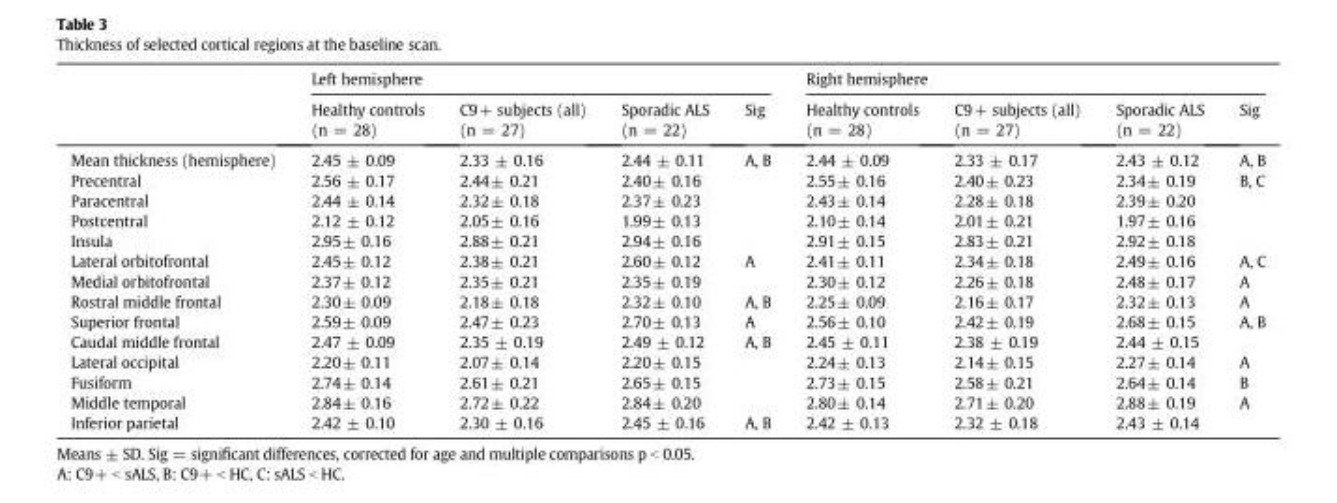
<table><thead><tr><td rowspan="2"></td><td colspan="4">Left hemisphere</td><td colspan="4">Right hemisphere</td></tr><tr><td>Healthy controls (n = 28)</td><td>C9+ subjects (all) (n = 27)</td><td>Sporadic ALS (n = 22)</td><td>Sig</td><td>Healthy controls (n = 28)</td><td>C9+ subjects (all) (n = 27)</td><td>Sporadic ALS (n = 22)</td><td>Sig</td></tr></thead><tbody><tr><td>Mean thickness (hemisphere)</td><td>2.45 ± 0.09</td><td>2.33 ± 0.16</td><td>2.44 ± 0.11</td><td>A, B</td><td>2.44 ± 0.09</td><td>2.33 ± 0.17</td><td>2.43 ± 0.12</td><td>A, B</td></tr><tr><td>Precentral</td><td>2.56 ± 0.17</td><td>2.44± 0.21</td><td>2.40± 0.16</td><td></td><td>2.55± 0.16</td><td>2.40± 0.23</td><td>2.34± 0.19</td><td>B, C</td></tr><tr><td>Paracentral</td><td>2.44 ± 0.14</td><td>2.32± 0.18</td><td>2.37± 0.23</td><td></td><td>2.43± 0.14</td><td>2.28± 0.18</td><td>2.39± 0.20</td><td></td></tr><tr><td>Postcentral</td><td>2.12 ± 0.12</td><td>2.05± 0.16</td><td>1.99± 0.13</td><td></td><td>2.10± 0.14</td><td>2.01± 0.21</td><td>1.97± 0.16</td><td></td></tr><tr><td>Insula</td><td>2.95± 0.16</td><td>2.88± 0.21</td><td>2.94± 0.16</td><td></td><td>2.91± 0.15</td><td>2.83± 0.21</td><td>2.92± 0.18</td><td></td></tr><tr><td>Lateral orbitofrontal</td><td>2.45± 0.12</td><td>2.38± 0.21</td><td>2.60± 0.12</td><td>A</td><td>2.41± 0.11</td><td>2.34± 0.18</td><td>2.49± 0.16</td><td>A, C</td></tr><tr><td>Medial orbitofrontal</td><td>2.37± 0.12</td><td>2.35± 0.21</td><td>2.35± 0.19</td><td></td><td>2.30± 0.12</td><td>2.26± 0.18</td><td>2.48± 0.17</td><td>A</td></tr><tr><td>Rostral middle frontal</td><td>2.30± 0.09</td><td>2.18± 0.18</td><td>2.32± 0.10</td><td>A, B</td><td>2.25± 0.09</td><td>2.16± 0.17</td><td>2.32± 0.13</td><td>A</td></tr><tr><td>Superior frontal</td><td>2.59± 0.09</td><td>2.47± 0.23</td><td>2.70± 0.13</td><td>A</td><td>2.56± 0.10</td><td>2.42± 0.19</td><td>2.68± 0.15</td><td>A, B</td></tr><tr><td>Caudal middle frontal</td><td>2.47 ± 0.09</td><td>2.35 ± 0.19</td><td>2.49 ± 0.12</td><td>A, B</td><td>2.45 ± 0.11</td><td>2.38 ± 0.19</td><td>2.44 ± 0.15</td><td></td></tr><tr><td>Lateral occipital</td><td>2.20± 0.11</td><td>2.07± 0.14</td><td>2.20± 0.15</td><td></td><td>2.24± 0.13</td><td>2.14± 0.15</td><td>2.27± 0.14</td><td>A</td></tr><tr><td>Fusiform</td><td>2.74± 0.14</td><td>2.61± 0.21</td><td>2.65± 0.15</td><td></td><td>2.73± 0.15</td><td>2.58± 0.21</td><td>2.64± 0.14</td><td>B</td></tr><tr><td>Middle temporal</td><td>2.84± 0.16</td><td>2.72± 0.22</td><td>2.84± 0.20</td><td></td><td>2.80± 0.14</td><td>2.71± 0.20</td><td>2.88± 0.19</td><td>A</td></tr><tr><td>Inferior parietal</td><td>2.42 ± 0.10</td><td>2.30 ± 0.16</td><td>2.45 ± 0.16</td><td>A, B</td><td>2.42 ± 0.13</td><td>2.32 ± 0.18</td><td>2.43 ± 0.14</td><td></td></tr></tbody></table>